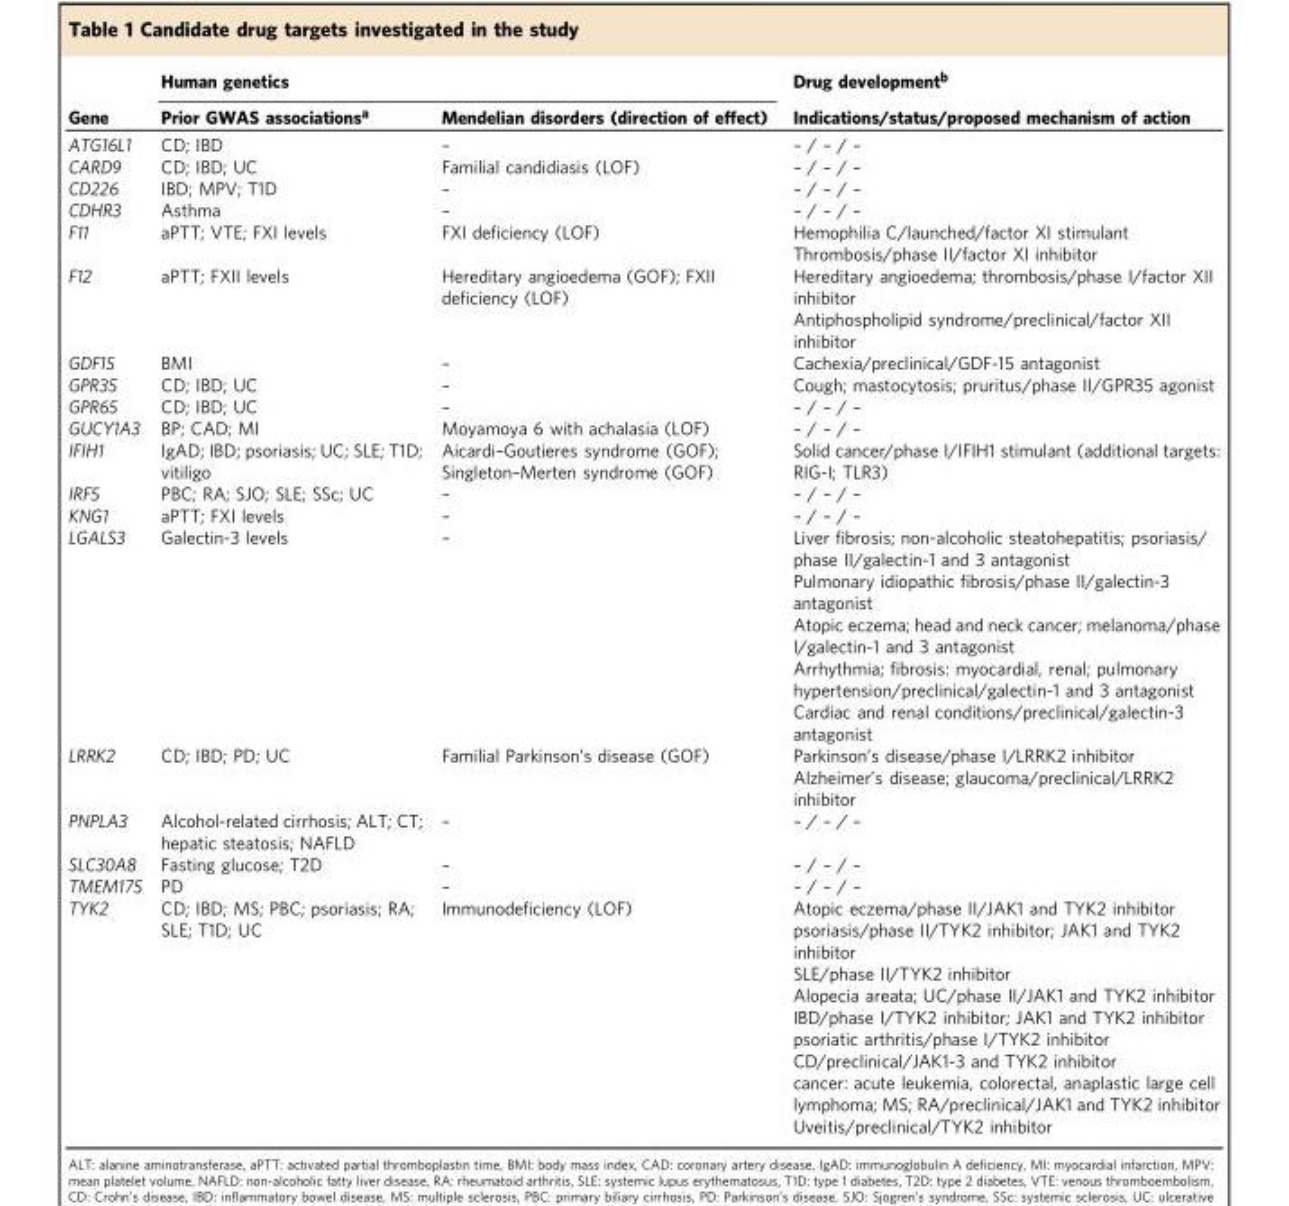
<table><thead><tr><td rowspan="2">Gene</td><td colspan="2">Human genetics</td><td rowspan="2">Drug development<sup>b</sup> Indications/status/proposed mechanism of action</td></tr><tr><td>Prior GWAS associations<sup>a</sup></td><td>Mendelian disorders (direction of effect)</td></tr></thead><tbody><tr><td>ATG16L1</td><td>CD; IBD</td><td>–</td><td>– / – / –</td></tr><tr><td>CARD9</td><td>CD; IBD; UC</td><td>Familial candidiasis (LOF)</td><td>– / – / –</td></tr><tr><td>CD226</td><td>IBD; MPV; T1D</td><td>–</td><td>– / – / –</td></tr><tr><td>CDHR3</td><td>Asthma</td><td>–</td><td>– / – / –</td></tr><tr><td rowspan="2">F11</td><td>aPTT; VTE; FXI levels</td><td>FXI deficiency (LOF)</td><td>Hemophilia C/launched/factor XI stimulant</td></tr><tr><td></td><td></td><td>Thrombosis/phase II/factor XI inhibitor</td></tr><tr><td rowspan="2">F12</td><td>aPTT; FXII levels</td><td>Hereditary angioedema (GOF); FXII deficiency (LOF)</td><td>Hereditary angioedema; thrombosis/phase I/factor XII inhibitor</td></tr><tr><td></td><td></td><td>Antiphospholipid syndrome/preclinical/factor XII inhibitor</td></tr><tr><td>GDF15</td><td>BMI</td><td>–</td><td>Cachexia/preclinical/GDF-15 antagonist</td></tr><tr><td>GPR35</td><td>CD; IBD; UC</td><td>–</td><td>Cough; mastocytosis; pruritus/phase II/GPR35 agonist</td></tr><tr><td>GPR65</td><td>CD; IBD; UC</td><td>–</td><td>– / – / –</td></tr><tr><td>GUCY1A3</td><td>BP; CAD; MI</td><td>Moyamoya 6 with achalasia (LOF)</td><td>– / – / –</td></tr><tr><td>IFIH1</td><td>IgAD; IBD; psoriasis; UC; SLE; T1D; vitiligo</td><td>Aicardi–Goutieres syndrome (GOF); Singleton–Merten syndrome (GOF)</td><td>Solid cancer/phase I/IFIH1 stimulant (additional targets: RIG-I; TLR3)</td></tr><tr><td>IRF5</td><td>PBC; RA; SJO; SLE; SSc; UC</td><td>–</td><td>– / – / –</td></tr><tr><td>KNG1</td><td>aPTT; FXI levels</td><td>–</td><td>– / – / –</td></tr><tr><td rowspan="5">LGALS3</td><td>Galectin-3 levels</td><td>–</td><td>Liver fibrosis; non-alcoholic steatohepatitis; psoriasis/ phase II/galectin-1 and 3 antagonist</td></tr><tr><td></td><td></td><td>Pulmonary idiopathic fibrosis/phase II/galectin-3 antagonist</td></tr><tr><td></td><td></td><td>Atopic eczema; head and neck cancer; melanoma/phase I/galectin-1 and 3 antagonist</td></tr><tr><td></td><td></td><td>Arrhythmia; fibrosis: myocardial, renal; pulmonary hypertension/preclinical/galectin-1 and 3 antagonist</td></tr><tr><td></td><td></td><td>Cardiac and renal conditions/preclinical/galectin-3 antagonist</td></tr><tr><td rowspan="2">LRRK2</td><td>CD; IBD; PD; UC</td><td>Familial Parkinson’s disease (GOF)</td><td>Parkinson’s disease/phase I/LRRK2 inhibitor</td></tr><tr><td></td><td></td><td>Alzheimer’s disease; glaucoma/preclinical/LRRK2 inhibitor</td></tr><tr><td>PNPLA3</td><td>Alcohol-related cirrhosis; ALT; CT; hepatic steatosis; NAFLD</td><td>–</td><td>– / – / –</td></tr><tr><td>SLC30A8</td><td>Fasting glucose; T2D</td><td>–</td><td>– / – / –</td></tr><tr><td>TMEM175</td><td>PD</td><td>–</td><td>– / – / –</td></tr><tr><td rowspan="9">TYK2</td><td rowspan="9">CD; IBD; MS; PBC; psoriasis; RA; SLE; T1D; UC</td><td>Immunodeficiency (LOF)</td><td>Atopic eczema/phase II/JAK1 and TYK2 inhibitor</td></tr><tr><td></td><td>psoriasis/phase II/TYK2 inhibitor; JAK1 and TYK2 inhibitor</td></tr><tr><td></td><td>SLE/phase II/TYK2 inhibitor</td></tr><tr><td></td><td>Alopecia areata; UC/phase II/JAK1 and TYK2 inhibitor</td></tr><tr><td></td><td>IBD/phase I/TYK2 inhibitor; JAK1 and TYK2 inhibitor</td></tr><tr><td></td><td>psoriatic arthritis/phase I/TYK2 inhibitor</td></tr><tr><td></td><td>CD/preclinical/JAK1-3 and TYK2 inhibitor</td></tr><tr><td></td><td>cancer: acute leukemia, colorectal, anaplastic large cell lymphoma; MS; RA/preclinical/JAK1 and TYK2 inhibitor</td></tr><tr><td></td><td>Uveitis/preclinical/TYK2 inhibitor</td></tr></tbody></table>